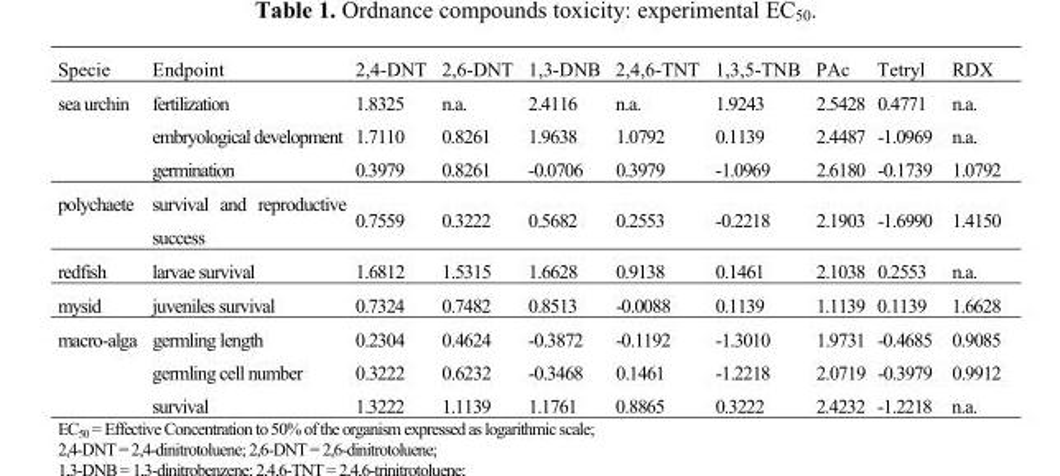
<table><thead><tr><td>Specie</td><td>Endpoint</td><td>2,4-DNT</td><td>2,6-DNT</td><td>1,3-DNB</td><td>2,4,6-TNT</td><td>1,3,5-TNB</td><td>PAc</td><td>Tetryl</td><td>RDX</td></tr></thead><tbody><tr><td rowspan="3">sea urchin</td><td>fertilization</td><td>1.8325</td><td>n.a.</td><td>2.4116</td><td>n.a.</td><td>1.9243</td><td>2.5428</td><td>0.4771</td><td>n.a.</td></tr><tr><td>embryological development</td><td>1.7110</td><td>0.8261</td><td>1.9638</td><td>1.0792</td><td>0.1139</td><td>2.4487</td><td>-1.0969</td><td>n.a.</td></tr><tr><td>germination</td><td>0.3979</td><td>0.8261</td><td>-0.0706</td><td>0.3979</td><td>-1.0969</td><td>2.6180</td><td>-0.1739</td><td>1.0792</td></tr><tr><td>polychaete</td><td>survival and reproductive success</td><td>0.7559</td><td>0.3222</td><td>0.5682</td><td>0.2553</td><td>-0.2218</td><td>2.1903</td><td>-1.6990</td><td>1.4150</td></tr><tr><td>redfish</td><td>larvae survival</td><td>1.6812</td><td>1.5315</td><td>1.6628</td><td>0.9138</td><td>0.1461</td><td>2.1038</td><td>0.2553</td><td>n.a.</td></tr><tr><td>mysid</td><td>juveniles survival</td><td>0.7324</td><td>0.7482</td><td>0.8513</td><td>-0.0088</td><td>0.1139</td><td>1.1139</td><td>0.1139</td><td>1.6628</td></tr><tr><td rowspan="3">macro-alga</td><td>germling length</td><td>0.2304</td><td>0.4624</td><td>-0.3872</td><td>-0.1192</td><td>-1.3010</td><td>1.9731</td><td>-0.4685</td><td>0.9085</td></tr><tr><td>germling cell number</td><td>0.3222</td><td>0.6232</td><td>-0.3468</td><td>0.1461</td><td>-1.2218</td><td>2.0719</td><td>-0.3979</td><td>0.9912</td></tr><tr><td>survival</td><td>1.3222</td><td>1.1139</td><td>1.1761</td><td>0.8865</td><td>0.3222</td><td>2.4232</td><td>-1.2218</td><td>n.a.</td></tr></tbody></table>